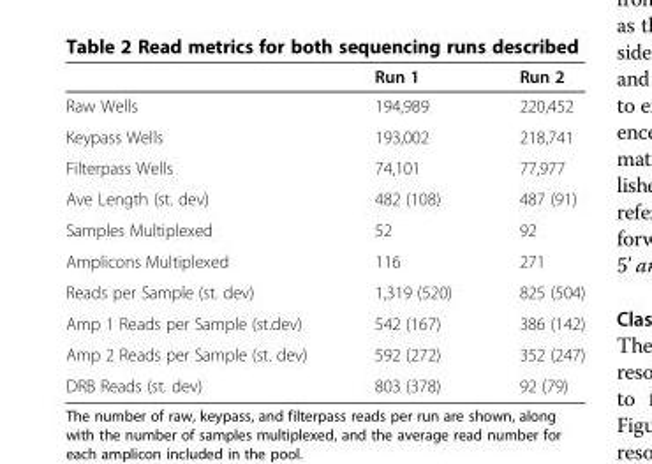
<table><thead><tr><td></td><td>Run 1</td><td>Run 2</td></tr></thead><tbody><tr><td>Raw Wells</td><td>194,989</td><td>220,452</td></tr><tr><td>Keypass Wells</td><td>193,002</td><td>218,741</td></tr><tr><td>Filterpass Wells</td><td>74,101</td><td>77,977</td></tr><tr><td>Ave Length (st. dev)</td><td>482 (108)</td><td>487 (91)</td></tr><tr><td>Samples Multiplexed</td><td>52</td><td>92</td></tr><tr><td>Amplicons Multiplexed</td><td>116</td><td>271</td></tr><tr><td>Reads per Sample (st. dev)</td><td>1,319 (520)</td><td>825 (504)</td></tr><tr><td>Amp 1 Reads per Sample (st.dev)</td><td>542 (167)</td><td>386 (142)</td></tr><tr><td>Amp 2 Reads per Sample (st. dev)</td><td>592 (272)</td><td>352 (247)</td></tr><tr><td>DRB Reads (st. dev)</td><td>803 (378)</td><td>92 (79)</td></tr></tbody></table>